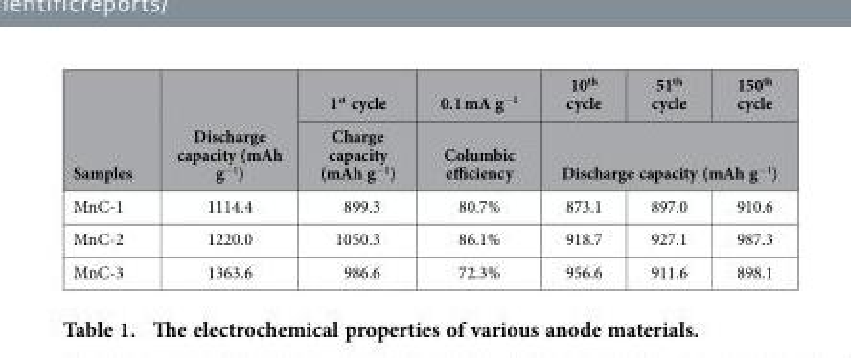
<table><thead><tr><td rowspan="2">Samples</td><td rowspan="2">Discharge capacity (mAh g<sup>−1</sup>)</td><td rowspan="2">1<sup>st</sup> cycle Charge capacity (mAh g<sup>−1</sup>)</td><td rowspan="2">0.1 mA g<sup>−1</sup> Columbic efficiency</td><td>10<sup>th</sup> cycle</td><td>51<sup>th</sup> cycle</td><td>150<sup>th</sup> cycle</td></tr><tr><td colspan="3">Discharge capacity (mAh g<sup>−1</sup>)</td></tr></thead><tbody><tr><td>MnC-1</td><td>1114.4</td><td>899.3</td><td>80.7%</td><td>873.1</td><td>897.0</td><td>910.6</td></tr><tr><td>MnC-2</td><td>1220.0</td><td>1050.3</td><td>86.1%</td><td>918.7</td><td>927.1</td><td>987.3</td></tr><tr><td>MnC-3</td><td>1363.6</td><td>986.6</td><td>72.3%</td><td>956.6</td><td>911.6</td><td>898.1</td></tr></tbody></table>